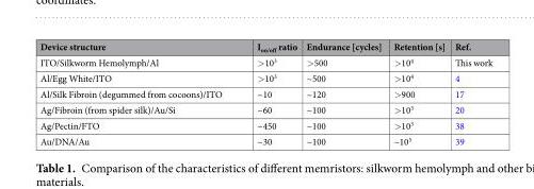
<table><thead><tr><td>Device structure</td><td>I<sub>on/off</sub> ratio</td><td>Endurance [cycles]</td><td>Retention [s]</td><td>Ref.</td></tr></thead><tbody><tr><td>ITO/Silkworm Hemolymph/Al</td><td>&gt;10<sup>3</sup></td><td>&gt;500</td><td>&gt;10<sup>4</sup></td><td>This work</td></tr><tr><td>Al/Egg White/ITO</td><td>&gt;10<sup>3</sup></td><td>~500</td><td>&gt;10<sup>4</sup></td><td>4</td></tr><tr><td>Al/Silk Fibroin (degummed from cocoons)/ITO</td><td>~10</td><td>~120</td><td>&gt;900</td><td>17</td></tr><tr><td>Ag/Fibroin (from spider silk)/Au/Si</td><td>~60</td><td>~100</td><td>&gt;10<sup>3</sup></td><td>20</td></tr><tr><td>Ag/Pectin/FTO</td><td>~450</td><td>~100</td><td>&gt;10<sup>3</sup></td><td>38</td></tr><tr><td>Au/DNA/Au</td><td>~30</td><td>~100</td><td>~10<sup>5</sup></td><td>39</td></tr></tbody></table>